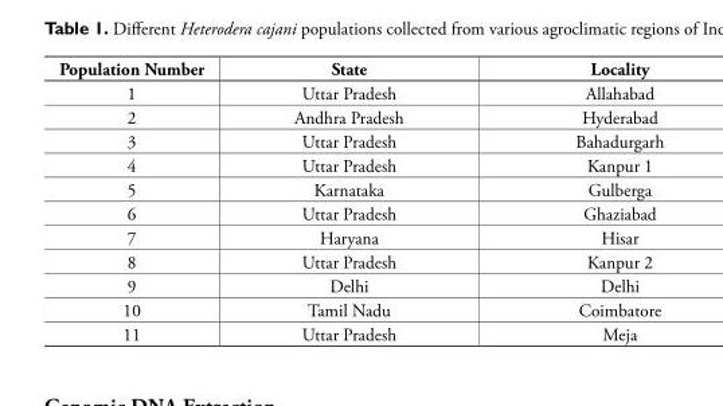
<table><thead><tr><td>Population Number</td><td>State</td><td>Locality</td></tr></thead><tbody><tr><td>1</td><td>Uttar Pradesh</td><td>Allahabad</td></tr><tr><td>2</td><td>Andhra Pradesh</td><td>Hyderabad</td></tr><tr><td>3</td><td>Uttar Pradesh</td><td>Bahadurgarh</td></tr><tr><td>4</td><td>Uttar Pradesh</td><td>Kanpur 1</td></tr><tr><td>5</td><td>Karnataka</td><td>Gulberga</td></tr><tr><td>6</td><td>Uttar Pradesh</td><td>Ghaziabad</td></tr><tr><td>7</td><td>Haryana</td><td>Hisar</td></tr><tr><td>8</td><td>Uttar Pradesh</td><td>Kanpur 2</td></tr><tr><td>9</td><td>Delhi</td><td>Delhi</td></tr><tr><td>10</td><td>Tamil Nadu</td><td>Coimbatore</td></tr><tr><td>11</td><td>Uttar Pradesh</td><td>Meja</td></tr></tbody></table>